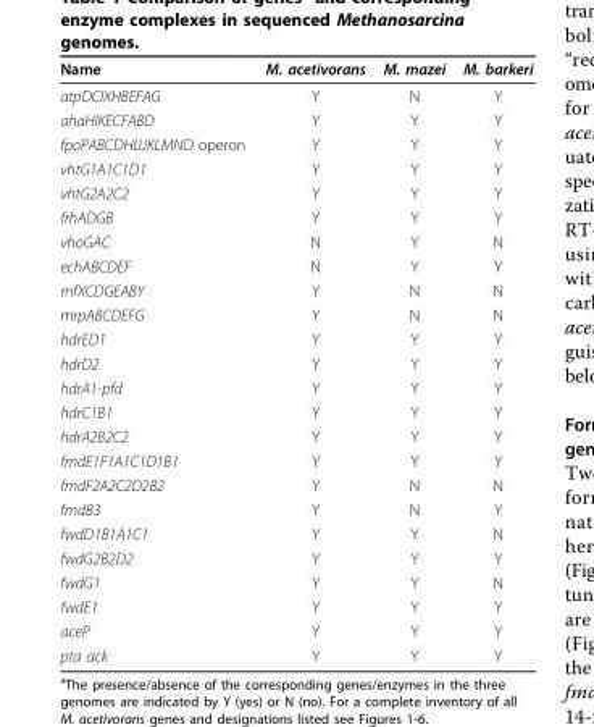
<table><thead><tr><td>Name</td><td>M. acetivorans</td><td>M. mazei</td><td>M. barkeri</td></tr></thead><tbody><tr><td>atpDCIXHBEFAG</td><td>Y</td><td>N</td><td>Y</td></tr><tr><td>ahaHIKECFABD</td><td>Y</td><td>Y</td><td>Y</td></tr><tr><td>fpoPABCDHIJJKLMNO operon</td><td>Y</td><td>Y</td><td>Y</td></tr><tr><td>vhtG1A1C1D1</td><td>Y</td><td>Y</td><td>Y</td></tr><tr><td>vhtG2A2C2</td><td>Y</td><td>Y</td><td>Y</td></tr><tr><td>frhADGB</td><td>Y</td><td>Y</td><td>Y</td></tr><tr><td>vhoGAC</td><td>N</td><td>Y</td><td>N</td></tr><tr><td>echABCDEF</td><td>N</td><td>Y</td><td>Y</td></tr><tr><td>rnfXCDGEABY</td><td>Y</td><td>N</td><td>N</td></tr><tr><td>mrpABCDEFG</td><td>Y</td><td>N</td><td>N</td></tr><tr><td>hdrED1</td><td>Y</td><td>Y</td><td>Y</td></tr><tr><td>hdrD2</td><td>Y</td><td>Y</td><td>Y</td></tr><tr><td>hdrA1-pfd</td><td>Y</td><td>Y</td><td>Y</td></tr><tr><td>hdrC1B1</td><td>Y</td><td>Y</td><td>Y</td></tr><tr><td>hdrA2B2C2</td><td>Y</td><td>Y</td><td>Y</td></tr><tr><td>fmdE1F1A1C1D1B1</td><td>Y</td><td>Y</td><td>Y</td></tr><tr><td>fmdF2A2C2D2B2</td><td>Y</td><td>N</td><td>N</td></tr><tr><td>fmdB3</td><td>Y</td><td>N</td><td>Y</td></tr><tr><td>fwdD1B1A1C1</td><td>Y</td><td>Y</td><td>N</td></tr><tr><td>fwdG2B2D2</td><td>Y</td><td>Y</td><td>Y</td></tr><tr><td>fwdG1</td><td>Y</td><td>Y</td><td>N</td></tr><tr><td>fwdE1</td><td>Y</td><td>Y</td><td>Y</td></tr><tr><td>aceP</td><td>Y</td><td>Y</td><td>Y</td></tr><tr><td>pta ack</td><td>Y</td><td>Y</td><td>Y</td></tr></tbody></table>